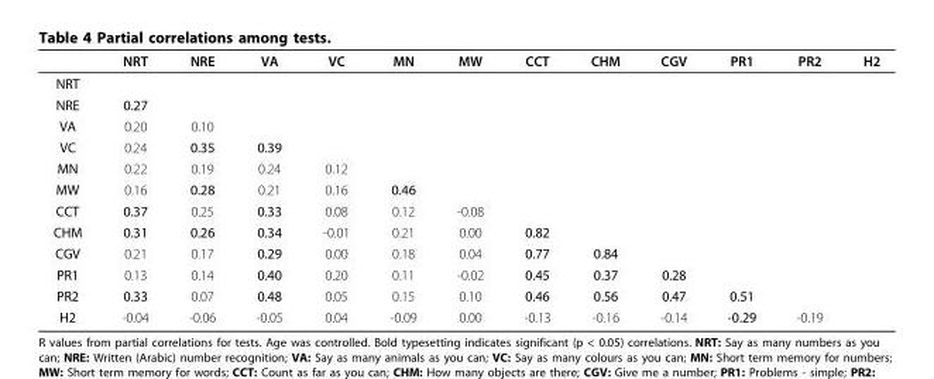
<table><thead><tr><td></td><td>NRT</td><td>NRE</td><td>VA</td><td>VC</td><td>MN</td><td>MW</td><td>CCT</td><td>CHM</td><td>CGV</td><td>PR1</td><td>PR2</td><td>H2</td></tr></thead><tbody><tr><td colspan="13">NRT</td></tr><tr><td>NRE</td><td>0.27</td><td></td><td></td><td></td><td></td><td></td><td></td><td></td><td></td><td></td><td></td><td></td></tr><tr><td>VA</td><td>0.20</td><td>0.10</td><td></td><td></td><td></td><td></td><td></td><td></td><td></td><td></td><td></td><td></td></tr><tr><td>VC</td><td>0.24</td><td>0.35</td><td>0.39</td><td></td><td></td><td></td><td></td><td></td><td></td><td></td><td></td><td></td></tr><tr><td>MN</td><td>0.22</td><td>0.19</td><td>0.24</td><td>0.12</td><td></td><td></td><td></td><td></td><td></td><td></td><td></td><td></td></tr><tr><td>MW</td><td>0.16</td><td>0.28</td><td>0.21</td><td>0.16</td><td>0.46</td><td></td><td></td><td></td><td></td><td></td><td></td><td></td></tr><tr><td>CCT</td><td>0.37</td><td>0.25</td><td>0.33</td><td>0.08</td><td>0.12</td><td>-0.08</td><td></td><td></td><td></td><td></td><td></td><td></td></tr><tr><td>CHM</td><td>0.31</td><td>0.26</td><td>0.34</td><td>-0.01</td><td>0.21</td><td>0.00</td><td>0.82</td><td></td><td></td><td></td><td></td><td></td></tr><tr><td>CGV</td><td>0.21</td><td>0.17</td><td>0.29</td><td>0.00</td><td>0.18</td><td>0.04</td><td>0.77</td><td>0.84</td><td></td><td></td><td></td><td></td></tr><tr><td>PR1</td><td>0.13</td><td>0.14</td><td>0.40</td><td>0.20</td><td>0.11</td><td>-0.02</td><td>0.45</td><td>0.37</td><td>0.28</td><td></td><td></td><td></td></tr><tr><td>PR2</td><td>0.33</td><td>0.07</td><td>0.48</td><td>0.05</td><td>0.15</td><td>0.10</td><td>0.46</td><td>0.56</td><td>0.47</td><td>0.51</td><td></td><td></td></tr><tr><td>H2</td><td>-0.04</td><td>-0.06</td><td>-0.05</td><td>0.04</td><td>-0.09</td><td>0.00</td><td>-0.13</td><td>-0.16</td><td>-0.14</td><td>-0.29</td><td>-0.19</td><td></td></tr></tbody></table>